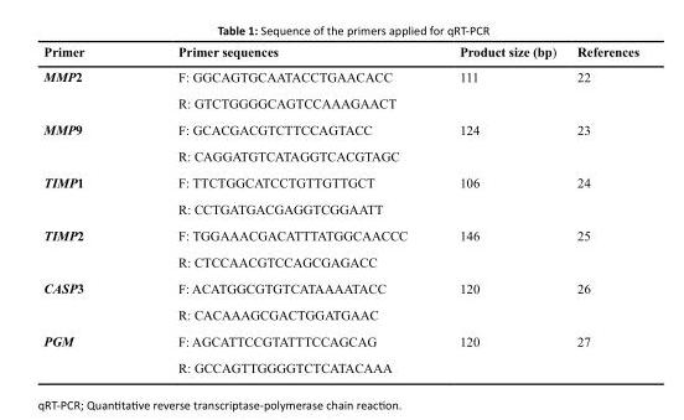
<table><thead><tr><td>Primer</td><td>Primer sequences</td><td>Product size (bp)</td><td>References</td></tr></thead><tbody><tr><td rowspan="2">MMP2</td><td>F: GGCAGTGCAATACCTGAACACC</td><td rowspan="2">111</td><td rowspan="2">22</td></tr><tr><td>R: GTCTGGGGCAGTCCAAAGAACT</td></tr><tr><td rowspan="2">MMP9</td><td>F: GCACGACGTCTTCCAGTACC</td><td rowspan="2">124</td><td rowspan="2">23</td></tr><tr><td>R: CAGGATGTCATAGGTCACGTAGC</td></tr><tr><td rowspan="2">TIMP1</td><td>F: TTCTGGCATCCTGTTGTTGCT</td><td rowspan="2">106</td><td rowspan="2">24</td></tr><tr><td>R: CCTGATGACGAGGTCGGAATT</td></tr><tr><td rowspan="2">TIMP2</td><td>F: TGGAAACGACATTTATGGCAACCC</td><td rowspan="2">146</td><td rowspan="2">25</td></tr><tr><td>R: CTCCAACGTCCAGCGAGACC</td></tr><tr><td rowspan="2">CASP3</td><td>F: ACATGGCGTGTCATAAAATACC</td><td rowspan="2">120</td><td rowspan="2">26</td></tr><tr><td>R: CACAAAGCGACTGGATGAAC</td></tr><tr><td rowspan="2">PGM</td><td>F: AGCATTCCGTATTTCCAGCAG</td><td rowspan="2">120</td><td rowspan="2">27</td></tr><tr><td>R: GCCAGTTGGGGTCTCATACAAA</td></tr></tbody></table>